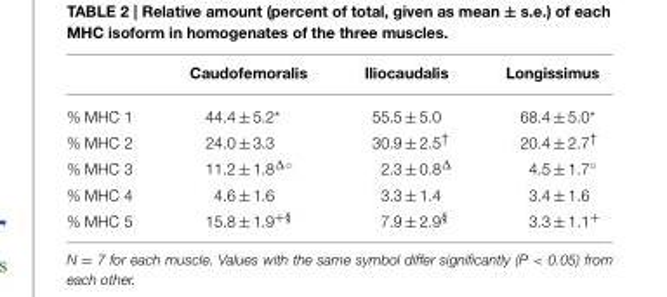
<table><thead><tr><td></td><td>Caudofemoralis</td><td>Iliocaudalis</td><td>Longissimus</td></tr></thead><tbody><tr><td>% MHC 1</td><td>44.4 ± 5.2*</td><td>55.5 ± 5.0</td><td>68.4 ± 5.0*</td></tr><tr><td>% MHC 2</td><td>24.0 ± 3.3</td><td>30.9 ± 2.5<sup>†</sup></td><td>20.4 ± 2.7<sup>†</sup></td></tr><tr><td>% MHC 3</td><td>11.2 ± 1.8Δ◦</td><td>2.3 ± 0.8<sup>Δ</sup></td><td>4.5 ± 1.7◦</td></tr><tr><td>% MHC 4</td><td>4.6 ± 1.6</td><td>3.3 ± 1.4</td><td>3.4 ± 1.6</td></tr><tr><td>% MHC 5</td><td>15.8 ± 1.9<sup>+§</sup></td><td>7.9 ± 2.9<sup>§</sup></td><td>3.3 ± 1.1<sup>+</sup></td></tr></tbody></table>